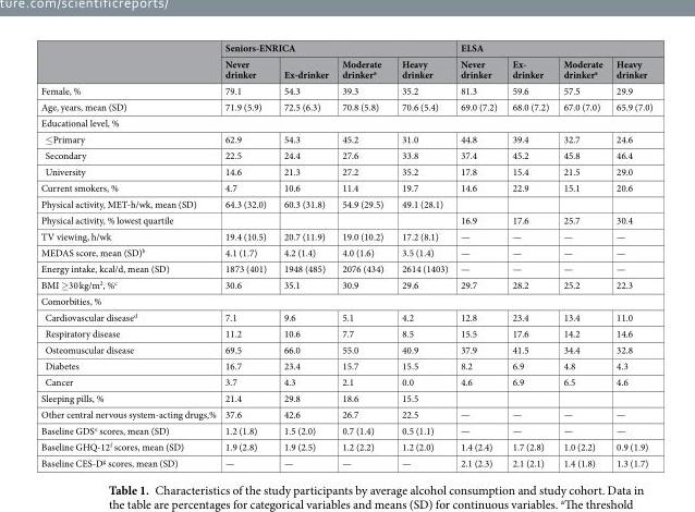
<table><thead><tr><td rowspan="2"></td><td colspan="4">Seniors-ENRICA</td><td colspan="4">ELSA</td></tr><tr><td>Never drinker</td><td>Ex-drinker</td><td>Moderate drinker<sup>a</sup></td><td>Heavy drinker</td><td>Never drinker</td><td>Ex- drinker</td><td>Moderate drinker<sup>a</sup></td><td>Heavy drinker</td></tr></thead><tbody><tr><td>Female, %</td><td>79.1</td><td>54.3</td><td>39.3</td><td>35.2</td><td>81.3</td><td>59.6</td><td>57.5</td><td>29.9</td></tr><tr><td>Age, years, mean (SD)</td><td>71.9 (5.9)</td><td>72.5 (6.3)</td><td>70.8 (5.8)</td><td>70.6 (5.4)</td><td>69.0 (7.2)</td><td>68.0 (7.2)</td><td>67.0 (7.0)</td><td>65.9 (7.0)</td></tr><tr><td colspan="9">Educational level, %</td></tr><tr><td>≤Primary</td><td>62.9</td><td>54.3</td><td>45.2</td><td>31.0</td><td>44.8</td><td>39.4</td><td>32.7</td><td>24.6</td></tr><tr><td>Secondary</td><td>22.5</td><td>24.4</td><td>27.6</td><td>33.8</td><td>37.4</td><td>45.2</td><td>45.8</td><td>46.4</td></tr><tr><td>University</td><td>14.6</td><td>21.3</td><td>27.2</td><td>35.2</td><td>17.8</td><td>15.4</td><td>21.5</td><td>29.0</td></tr><tr><td>Current smokers, %</td><td>4.7</td><td>10.6</td><td>11.4</td><td>19.7</td><td>14.6</td><td>22.9</td><td>15.1</td><td>20.6</td></tr><tr><td>Physical activity, MET-h/wk, mean (SD)</td><td>64.3 (32.0)</td><td>60.3 (31.8)</td><td>54.9 (29.5)</td><td>49.1 (28.1)</td><td></td><td></td><td></td><td></td></tr><tr><td>Physical activity, % lowest quartile</td><td></td><td></td><td></td><td></td><td>16.9</td><td>17.6</td><td>25.7</td><td>30.4</td></tr><tr><td>TV viewing, h/wk</td><td>19.4 (10.5)</td><td>20.7 (11.9)</td><td>19.0 (10.2)</td><td>17.2 (8.1)</td><td>—</td><td>—</td><td>—</td><td>—</td></tr><tr><td>MEDAS score, mean (SD)<sup>b</sup></td><td>4.1 (1.7)</td><td>4.2 (1.4)</td><td>4.0 (1.6)</td><td>3.5 (1.4)</td><td>—</td><td>—</td><td>—</td><td>—</td></tr><tr><td>Energy intake, kcal/d, mean (SD)</td><td>1873 (401)</td><td>1948 (485)</td><td>2076 (434)</td><td>2614 (1403)</td><td>—</td><td>—</td><td>—</td><td>—</td></tr><tr><td>BMI ≥30 kg/m<sup>2</sup>, %<sup>c</sup></td><td>30.6</td><td>35.1</td><td>30.9</td><td>29.6</td><td>29.7</td><td>28.2</td><td>25.2</td><td>22.3</td></tr><tr><td colspan="9">Comorbities, %</td></tr><tr><td>Cardiovascular disease<sup>d</sup></td><td>7.1</td><td>9.6</td><td>5.1</td><td>4.2</td><td>12.8</td><td>23.4</td><td>13.4</td><td>11.0</td></tr><tr><td>Respiratory disease</td><td>11.2</td><td>10.6</td><td>7.7</td><td>8.5</td><td>15.5</td><td>17.6</td><td>14.2</td><td>14.6</td></tr><tr><td>Osteomuscular disease</td><td>69.5</td><td>66.0</td><td>55.0</td><td>40.9</td><td>37.9</td><td>41.5</td><td>34.4</td><td>32.8</td></tr><tr><td>Diabetes</td><td>16.7</td><td>23.4</td><td>15.7</td><td>15.5</td><td>8.2</td><td>6.9</td><td>4.8</td><td>4.3</td></tr><tr><td>Cancer</td><td>3.7</td><td>4.3</td><td>2.1</td><td>0.0</td><td>4.6</td><td>6.9</td><td>6.5</td><td>4.6</td></tr><tr><td>Sleeping pills, %</td><td>21.4</td><td>29.8</td><td>18.6</td><td>15.5</td><td></td><td></td><td></td><td></td></tr><tr><td>Other central nervous system-acting drugs,%</td><td>37.6</td><td>42.6</td><td>26.7</td><td>22.5</td><td>—</td><td>—</td><td>—</td><td>—</td></tr><tr><td>Baseline GDS<sup>e</sup> scores, mean (SD)</td><td>1.2 (1.8)</td><td>1.5 (2.0)</td><td>0.7 (1.4)</td><td>0.5 (1.1)</td><td>—</td><td>—</td><td>—</td><td>—</td></tr><tr><td>Baseline GHQ-12<sup>f</sup> scores, mean (SD)</td><td>1.9 (2.8)</td><td>1.9 (2.5)</td><td>1.2 (2.2)</td><td>1.2 (2.0)</td><td>1.4 (2.4)</td><td>1.7 (2.8)</td><td>1.0 (2.2)</td><td>0.9 (1.9)</td></tr><tr><td>Baseline CES-D<sup>g</sup> scores, mean (SD)</td><td>—</td><td>—</td><td>—</td><td>—</td><td>2.1 (2.3)</td><td>2.1 (2.1)</td><td>1.4 (1.8)</td><td>1.3 (1.7)</td></tr></tbody></table>